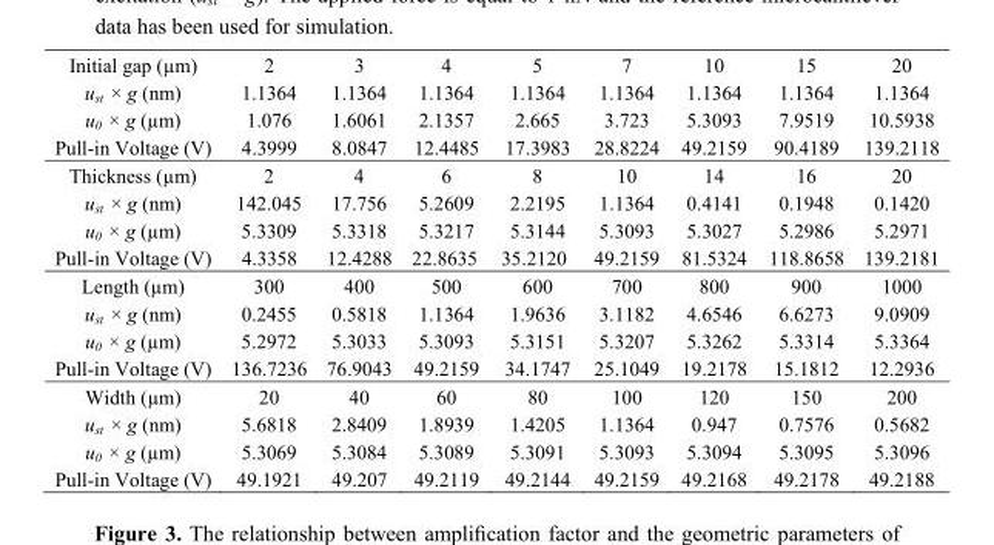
<table><tbody><tr><td>Initial gap (µm)</td><td>2</td><td>3</td><td>4</td><td>5</td><td>7</td><td>10</td><td>15</td><td>20</td></tr><tr><td>u<sub>st</sub> × g (nm)</td><td>1.1364</td><td>1.1364</td><td>1.1364</td><td>1.1364</td><td>1.1364</td><td>1.1364</td><td>1.1364</td><td>1.1364</td></tr><tr><td>u<sub>0</sub> × g (µm)</td><td>1.076</td><td>1.6061</td><td>2.1357</td><td>2.665</td><td>3.723</td><td>5.3093</td><td>7.9519</td><td>10.5938</td></tr><tr><td>Pull-in Voltage (V)</td><td>4.3999</td><td>8.0847</td><td>12.4485</td><td>17.3983</td><td>28.8224</td><td>49.2159</td><td>90.4189</td><td>139.2118</td></tr><tr><td>Thickness (µm)</td><td>2</td><td>4</td><td>6</td><td>8</td><td>10</td><td>14</td><td>16</td><td>20</td></tr><tr><td>u<sub>st</sub> × g (nm)</td><td>142.045</td><td>17.756</td><td>5.2609</td><td>2.2195</td><td>1.1364</td><td>0.4141</td><td>0.1948</td><td>0.1420</td></tr><tr><td>u<sub>0</sub> × g (µm)</td><td>5.3309</td><td>5.3318</td><td>5.3217</td><td>5.3144</td><td>5.3093</td><td>5.3027</td><td>5.2986</td><td>5.2971</td></tr><tr><td>Pull-in Voltage (V)</td><td>4.3358</td><td>12.4288</td><td>22.8635</td><td>35.2120</td><td>49.2159</td><td>81.5324</td><td>118.8658</td><td>139.2181</td></tr><tr><td>Length (µm)</td><td>300</td><td>400</td><td>500</td><td>600</td><td>700</td><td>800</td><td>900</td><td>1000</td></tr><tr><td>u<sub>st</sub> × g (nm)</td><td>0.2455</td><td>0.5818</td><td>1.1364</td><td>1.9636</td><td>3.1182</td><td>4.6546</td><td>6.6273</td><td>9.0909</td></tr><tr><td>u<sub>0</sub> × g (µm)</td><td>5.2972</td><td>5.3033</td><td>5.3093</td><td>5.3151</td><td>5.3207</td><td>5.3262</td><td>5.3314</td><td>5.3364</td></tr><tr><td>Pull-in Voltage (V)</td><td>136.7236</td><td>76.9043</td><td>49.2159</td><td>34.1747</td><td>25.1049</td><td>19.2178</td><td>15.1812</td><td>12.2936</td></tr><tr><td>Width (µm)</td><td>20</td><td>40</td><td>60</td><td>80</td><td>100</td><td>120</td><td>150</td><td>200</td></tr><tr><td>u<sub>st</sub> × g (nm)</td><td>5.6818</td><td>2.8409</td><td>1.8939</td><td>1.4205</td><td>1.1364</td><td>0.947</td><td>0.7576</td><td>0.5682</td></tr><tr><td>u<sub>0</sub> × g (µm)</td><td>5.3069</td><td>5.3084</td><td>5.3089</td><td>5.3091</td><td>5.3093</td><td>5.3094</td><td>5.3095</td><td>5.3096</td></tr><tr><td>Pull-in Voltage (V)</td><td>49.1921</td><td>49.207</td><td>49.2119</td><td>49.2144</td><td>49.2159</td><td>49.2168</td><td>49.2178</td><td>49.2188</td></tr></tbody></table>